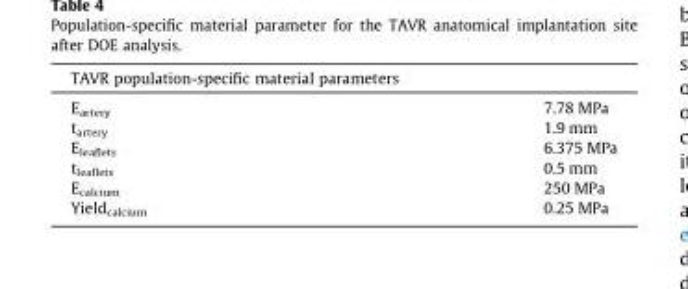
<table><thead><tr><td colspan="2">TAVR population-specific material parameters</td></tr><tr><td>E<sub>artery</sub></td><td>7.78 MPa</td></tr></thead><tbody><tr><td>t<sub>artery</sub></td><td>1.9 mm</td></tr><tr><td>E<sub>leaflets</sub></td><td>6.375 MPa</td></tr><tr><td>t<sub>leaflets</sub></td><td>0.5 mm</td></tr><tr><td>E<sub>calcium</sub></td><td>250 MPa</td></tr><tr><td>Yield<sub>calcium</sub></td><td>0.25 MPa</td></tr></tbody></table>